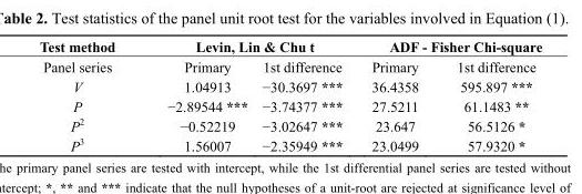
<table><thead><tr><td rowspan="2">Test method Panel series</td><td colspan="2">Levin, Lin &amp; Chu t</td><td colspan="2">ADF - Fisher Chi-square</td></tr><tr><td>Primary</td><td>1st difference</td><td>Primary</td><td>1st difference</td></tr></thead><tbody><tr><td>V</td><td>1.04913</td><td>−30.3697 ***</td><td>36.4358</td><td>595.897 ***</td></tr><tr><td>P</td><td>−2.89544 ***</td><td>−3.74377 ***</td><td>27.5211</td><td>61.1483 **</td></tr><tr><td>P<sup>2</sup></td><td>−0.52219</td><td>−3.02647 ***</td><td>23.647</td><td>56.5126 *</td></tr><tr><td>P<sup>3</sup></td><td>1.56007</td><td>−2.35949 ***</td><td>23.0499</td><td>57.9320 *</td></tr></tbody></table>